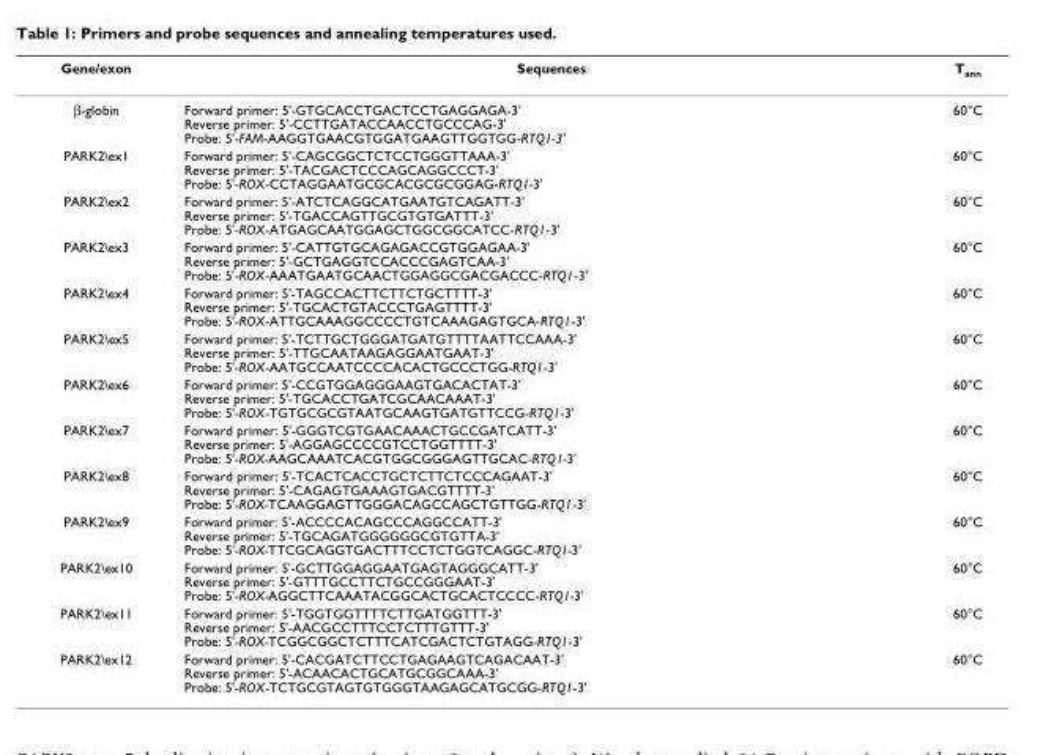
<table><thead><tr><td>Gene/exon</td><td>Sequences</td><td>T<sub>ann</sub></td></tr></thead><tbody><tr><td>β-globin</td><td>Forward primer: 5&#x27;-GTGCACCTGACTCCTGAGGAGA-3&#x27; Reverse primer: 5&#x27;-CCTTGATACCAACCTGCCCAG-3&#x27; Probe: 5&#x27;-FAM-AAGGTGAACGTGGATGAAGTTGGTGG-RTQ1-3&#x27;</td><td>60°C</td></tr><tr><td>PARK2\ex1</td><td>Forward primer: 5&#x27;-CAGCGGCTCTCCTGGGTTAAA-3&#x27; Reverse primer: 5&#x27;-TACGACTCCCAGCAGGCCCT-3&#x27; Probe: 5&#x27;-ROX-CCTAGGAATGCGCACGCGCGGAG-RTQ1-3&#x27;</td><td>60°C</td></tr><tr><td>PARK2\ex2</td><td>Forward primer: 5&#x27;-ATCTCAGGCATGAATGTCAGATT-3&#x27; Reverse primer: 5&#x27;-TGACCAGTTGCGTGTGATTT-3&#x27; Probe: 5&#x27;-ROX-ATGAGCAATGGAGCTGGCGGCATCC-RTQ1-3&#x27;</td><td>60°C</td></tr><tr><td>PARK2\ex3</td><td>Forward primer: 5&#x27;-CATTGTGCAGAGACCGTGGAGAA-3&#x27; Reverse primer: 5&#x27;-GCTGAGGTCCACCCGAGTCAA-3&#x27; Probe: 5&#x27;-ROX-AAATGAATGCAACTGGAGGCGACGACCC-RTQ1-3&#x27;</td><td>60°C</td></tr><tr><td>PARK2\ex4</td><td>Forward primer: 5&#x27;-TAGCCACTTCTTCTGCTTTT-3&#x27; Reverse primer: 5&#x27;-TGCACTGTACCCTGAGTTTT-3&#x27; Probe: 5&#x27;-ROX-ATTGCAAAGGCCCCTGTCAAAGAGTGCA-RTQ1-3&#x27;</td><td>60°C</td></tr><tr><td>PARK2\ex5</td><td>Forward primer: 5&#x27;-TCTTGCTGGGATGATGTTTTAATTCCAAA-3&#x27; Reverse primer: 5&#x27;-TTGCAATAAGAGGAATGAAT-3&#x27; Probe: 5&#x27;-ROX-AATGCCAATCCCCACACTGCCCTGG-RTQ1-3&#x27;</td><td>60°C</td></tr><tr><td>PARK2\ex6</td><td>Forward primer: 5&#x27;-CCGTGGAGGGAAGTGACACTAT-3&#x27; Reverse primer: 5&#x27;-TGCACCTGATCGCAACAAAT-3&#x27; Probe: 5&#x27;-ROX-TGTGCGCGTAATGCAAGTGATGTTCCG-RTQ1-3&#x27;</td><td>60°C</td></tr><tr><td>PARK2\ex7</td><td>Forward primer: 5&#x27;-GGGTCGTGAACAAACTGCCGATCATT-3&#x27; Reverse primer: 5&#x27;-AGGAGCCCCGTCCTGGTTTT-3&#x27; Probe: 5&#x27;-ROX-AAGCAAATCACGTGGCGGGAGTTGCAC-RTQ1-3&#x27;</td><td>60°C</td></tr><tr><td>PARK2\ex8</td><td>Forward primer: 5&#x27;-TCACTCACCTGCTCTTCTCCCAGAAT-3&#x27; Reverse primer: 5&#x27;-CAGAGTGAAAGTGACGTTTT-3&#x27; Probe: 5&#x27;-ROX-TCAAGGAGTTGGGACAGCCAGCTGTTGG-RTQ1-3&#x27;</td><td>60°C</td></tr><tr><td>PARK2\ex9</td><td>Forward primer: 5&#x27;-ACCCCACAGCCCAGGCCATT-3&#x27; Reverse primer: 5&#x27;-TGCAGATGGGGGGCGTGTTA-3&#x27; Probe: 5&#x27;-ROX-TTCGCAGGTGACTTTCCTCTGGTCAGGC-RTQ1-3&#x27;</td><td>60°C</td></tr><tr><td>PARK2\ex10</td><td>Forward primer: 5&#x27;-GCTTGGAGGAATGAGTAGGGCATT-3&#x27; Reverse primer: 5&#x27;-GTTTGCCTTCTGCCGGGAAT-3&#x27; Probe: 5&#x27;-ROX-AGGCTTCAAATACGGCACTGCACTCCCC-RTQ1-3&#x27;</td><td>60°C</td></tr><tr><td>PARK2\ex11</td><td>Forward primer: 5&#x27;-TGGTGGTTTTCTTGATGGTTT-3&#x27; Reverse primer: 5&#x27;-AACGCCTTTCCTCTTTGTTT-3&#x27; Probe: 5&#x27;-ROX-TCGGCGGCTCTTTCATCGACTCTGTAGG-RTQ1-3&#x27;</td><td>60°C</td></tr><tr><td>PARK2\ex12</td><td>Forward primer: 5&#x27;-CACGATCTTCCTGAGAAGTCAGACAAT-3&#x27; Reverse primer: 5&#x27;-ACAACACTGCATGCGGCAAA-3&#x27; Probe: 5&#x27;-ROX-TCTGCGTAGTGTGGGTAAGAGCATGCGG-RTQ1-3&#x27;</td><td>60°C</td></tr></tbody></table>